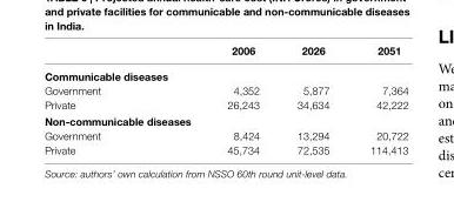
<table><thead><tr><td></td><td>2006</td><td>2026</td><td>2051</td></tr></thead><tbody><tr><td colspan="4">communicable diseases</td></tr><tr><td>Government</td><td>4,352</td><td>5,877</td><td>7,364</td></tr><tr><td>Private</td><td>26,243</td><td>34,634</td><td>42,222</td></tr><tr><td colspan="4">non-communicable diseases</td></tr><tr><td>Government</td><td>8,424</td><td>13,294</td><td>20,722</td></tr><tr><td>Private</td><td>45,734</td><td>72,535</td><td>114,413</td></tr></tbody></table>